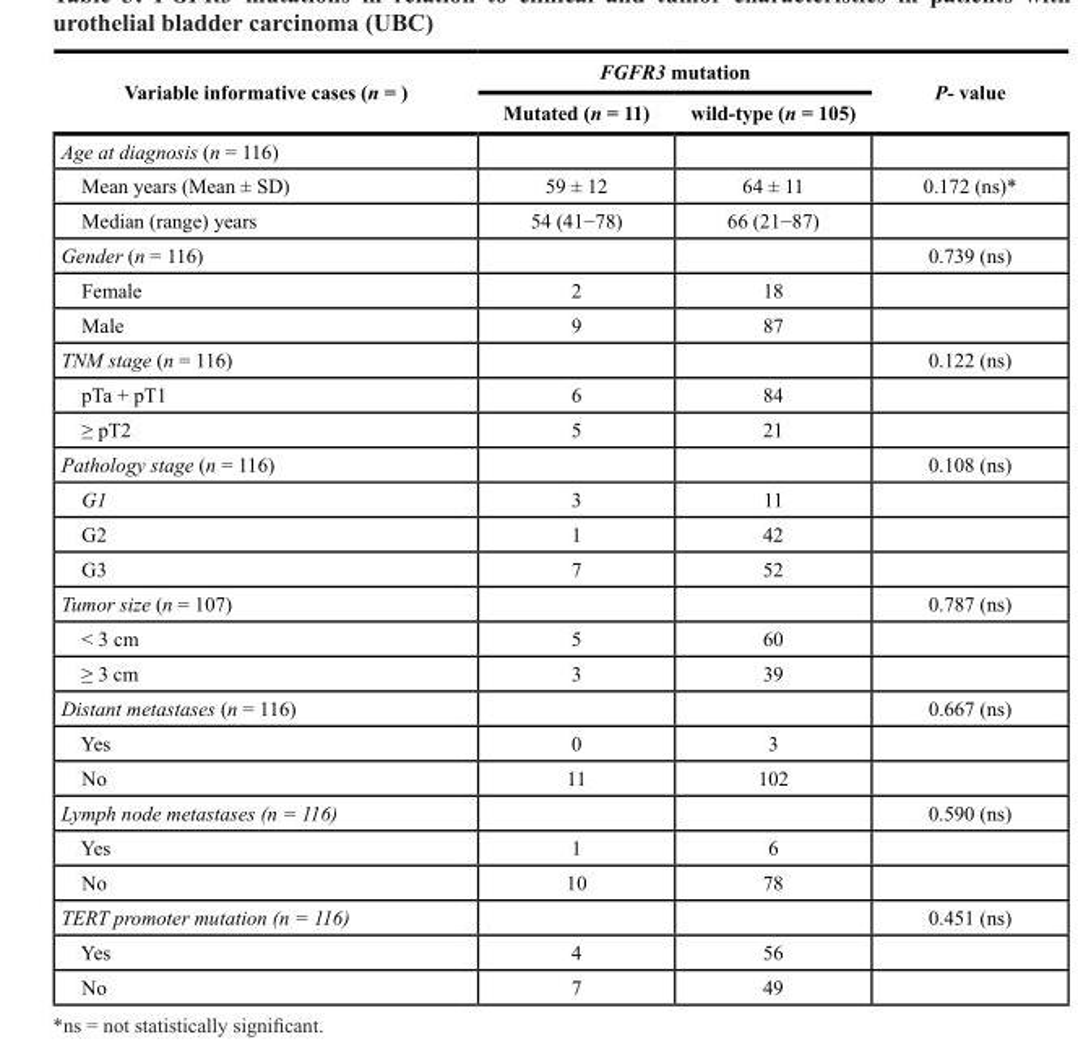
<table><thead><tr><td rowspan="2">Variable informative cases (n = )</td><td colspan="2">FGFR3 mutation</td><td rowspan="2">P- value</td></tr><tr><td>Mutated (n = 11)</td><td>wild-type (n = 105)</td></tr></thead><tbody><tr><td colspan="4">Age at diagnosis (n = 116)</td></tr><tr><td>Mean years (Mean ± SD)</td><td>59 ± 12</td><td>64 ± 11</td><td>0.172 (ns)*</td></tr><tr><td>Median (range) years</td><td>54 (41−78)</td><td>66 (21−87)</td><td></td></tr><tr><td>Gender (n = 116)</td><td></td><td></td><td>0.739 (ns)</td></tr><tr><td>Female</td><td>2</td><td>18</td><td></td></tr><tr><td>Male</td><td>9</td><td>87</td><td></td></tr><tr><td>TNM stage (n = 116)</td><td></td><td></td><td>0.122 (ns)</td></tr><tr><td>pTa + pT1</td><td>6</td><td>84</td><td></td></tr><tr><td>≥ pT2</td><td>5</td><td>21</td><td></td></tr><tr><td>Pathology stage (n = 116)</td><td></td><td></td><td>0.108 (ns)</td></tr><tr><td>G1</td><td>3</td><td>11</td><td></td></tr><tr><td>G2</td><td>1</td><td>42</td><td></td></tr><tr><td>G3</td><td>7</td><td>52</td><td></td></tr><tr><td>Tumor size (n = 107)</td><td></td><td></td><td>0.787 (ns)</td></tr><tr><td>&lt; 3 cm</td><td>5</td><td>60</td><td></td></tr><tr><td>≥ 3 cm</td><td>3</td><td>39</td><td></td></tr><tr><td>Distant metastases (n = 116)</td><td></td><td></td><td>0.667 (ns)</td></tr><tr><td>Yes</td><td>0</td><td>3</td><td></td></tr><tr><td>No</td><td>11</td><td>102</td><td></td></tr><tr><td>Lymph node metastases (n = 116)</td><td></td><td></td><td>0.590 (ns)</td></tr><tr><td>Yes</td><td>1</td><td>6</td><td></td></tr><tr><td>No</td><td>10</td><td>78</td><td></td></tr><tr><td>TERT promoter mutation (n = 116)</td><td></td><td></td><td>0.451 (ns)</td></tr><tr><td>Yes</td><td>4</td><td>56</td><td></td></tr><tr><td>No</td><td>7</td><td>49</td><td></td></tr></tbody></table>